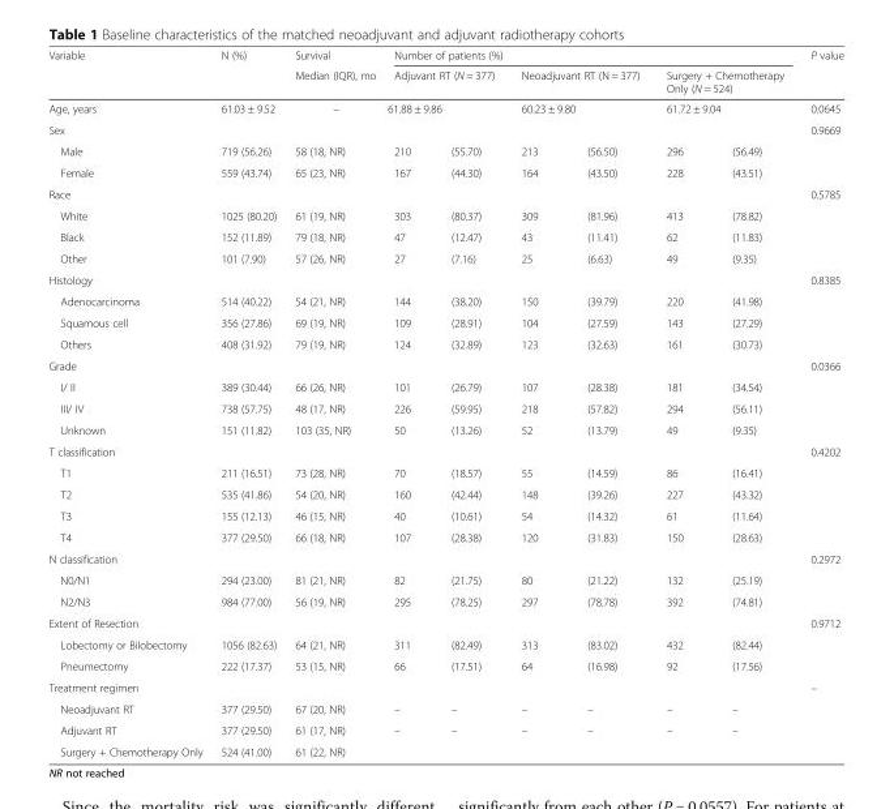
<table><thead><tr><td rowspan="4">Variable Age, years Sex</td><td rowspan="4">N (%) 61.03 ± 9.52</td><td rowspan="4">Survival Median (IQR), mo –</td><td colspan="6">Number of patients (%)</td><td rowspan="4">P value 0.0645 0.9669</td></tr><tr><td rowspan="2" colspan="2">Adjuvant RT (N = 377) 61.88 ± 9.86</td><td rowspan="2" colspan="2">Neoadjuvant RT (N = 377) 60.23 ± 9.80</td><td rowspan="2" colspan="2">Surgery + Chemotherapy Only (N = 524) 61.72 ± 9.04</td></tr><tr></tr><tr><td></td><td></td><td></td><td></td><td></td><td></td></tr></thead><tbody><tr><td>Male</td><td>719 (56.26)</td><td>58 (18, NR)</td><td>210</td><td>(55.70)</td><td>213</td><td>(56.50)</td><td>296</td><td>(56.49)</td><td></td></tr><tr><td>Female</td><td>559 (43.74)</td><td>65 (23, NR)</td><td>167</td><td>(44.30)</td><td>164</td><td>(43.50)</td><td>228</td><td>(43.51)</td><td></td></tr><tr><td>Race</td><td></td><td></td><td></td><td></td><td></td><td></td><td></td><td></td><td>0.5785</td></tr><tr><td>White</td><td>1025 (80.20)</td><td>61 (19, NR)</td><td>303</td><td>(80.37)</td><td>309</td><td>(81.96)</td><td>413</td><td>(78.82)</td><td></td></tr><tr><td>Black</td><td>152 (11.89)</td><td>79 (18, NR)</td><td>47</td><td>(12.47)</td><td>43</td><td>(11.41)</td><td>62</td><td>(11.83)</td><td></td></tr><tr><td>Other</td><td>101 (7.90)</td><td>57 (26, NR)</td><td>27</td><td>(7.16)</td><td>25</td><td>(6.63)</td><td>49</td><td>(9.35)</td><td></td></tr><tr><td>Histology</td><td></td><td></td><td></td><td></td><td></td><td></td><td></td><td></td><td>0.8385</td></tr><tr><td>Adenocarcinoma</td><td>514 (40.22)</td><td>54 (21, NR)</td><td>144</td><td>(38.20)</td><td>150</td><td>(39.79)</td><td>220</td><td>(41.98)</td><td></td></tr><tr><td>Squamous cell</td><td>356 (27.86)</td><td>69 (19, NR)</td><td>109</td><td>(28.91)</td><td>104</td><td>(27.59)</td><td>143</td><td>(27.29)</td><td></td></tr><tr><td>Others</td><td>408 (31.92)</td><td>79 (19, NR)</td><td>124</td><td>(32.89)</td><td>123</td><td>(32.63)</td><td>161</td><td>(30.73)</td><td></td></tr><tr><td>Grade</td><td></td><td></td><td></td><td></td><td></td><td></td><td></td><td></td><td>0.0366</td></tr><tr><td>I/ II</td><td>389 (30.44)</td><td>66 (26, NR)</td><td>101</td><td>(26.79)</td><td>107</td><td>(28.38)</td><td>181</td><td>(34.54)</td><td></td></tr><tr><td>III/ IV</td><td>738 (57.75)</td><td>48 (17, NR)</td><td>226</td><td>(59.95)</td><td>218</td><td>(57.82)</td><td>294</td><td>(56.11)</td><td></td></tr><tr><td>Unknown</td><td>151 (11.82)</td><td>103 (35, NR)</td><td>50</td><td>(13.26)</td><td>52</td><td>(13.79)</td><td>49</td><td>(9.35)</td><td></td></tr><tr><td>T classification</td><td></td><td></td><td></td><td></td><td></td><td></td><td></td><td></td><td>0.4202</td></tr><tr><td>T1</td><td>211 (16.51)</td><td>73 (28, NR)</td><td>70</td><td>(18.57)</td><td>55</td><td>(14.59)</td><td>86</td><td>(16.41)</td><td></td></tr><tr><td>T2</td><td>535 (41.86)</td><td>54 (20, NR)</td><td>160</td><td>(42.44)</td><td>148</td><td>(39.26)</td><td>227</td><td>(43.32)</td><td></td></tr><tr><td>T3</td><td>155 (12.13)</td><td>46 (15, NR)</td><td>40</td><td>(10.61)</td><td>54</td><td>(14.32)</td><td>61</td><td>(11.64)</td><td></td></tr><tr><td>T4</td><td>377 (29.50)</td><td>66 (18, NR)</td><td>107</td><td>(28.38)</td><td>120</td><td>(31.83)</td><td>150</td><td>(28.63)</td><td></td></tr><tr><td>N classification</td><td></td><td></td><td></td><td></td><td></td><td></td><td></td><td></td><td>0.2972</td></tr><tr><td>N0/N1</td><td>294 (23.00)</td><td>81 (21, NR)</td><td>82</td><td>(21.75)</td><td>80</td><td>(21.22)</td><td>132</td><td>(25.19)</td><td></td></tr><tr><td>N2/N3</td><td>984 (77.00)</td><td>56 (19, NR)</td><td>295</td><td>(78.25)</td><td>297</td><td>(78.78)</td><td>392</td><td>(74.81)</td><td></td></tr><tr><td>Extent of Resection</td><td></td><td></td><td></td><td></td><td></td><td></td><td></td><td></td><td>0.9712</td></tr><tr><td>Lobectomy or Bilobectomy</td><td>1056 (82.63)</td><td>64 (21, NR)</td><td>311</td><td>(82.49)</td><td>313</td><td>(83.02)</td><td>432</td><td>(82.44)</td><td></td></tr><tr><td>Pneumectomy</td><td>222 (17.37)</td><td>53 (15, NR)</td><td>66</td><td>(17.51)</td><td>64</td><td>(16.98)</td><td>92</td><td>(17.56)</td><td></td></tr><tr><td>Treatment regimen</td><td></td><td></td><td></td><td></td><td></td><td></td><td></td><td></td><td>–</td></tr><tr><td>Neoadjuvant RT</td><td>377 (29.50)</td><td>67 (20, NR)</td><td>–</td><td>–</td><td>–</td><td>–</td><td>–</td><td>–</td><td></td></tr><tr><td>Adjuvant RT</td><td>377 (29.50)</td><td>61 (17, NR)</td><td>–</td><td>–</td><td>–</td><td>–</td><td>–</td><td>–</td><td></td></tr><tr><td>Surgery + Chemotherapy Only</td><td>524 (41.00)</td><td>61 (22, NR)</td><td></td><td></td><td></td><td></td><td></td><td></td><td></td></tr></tbody></table>